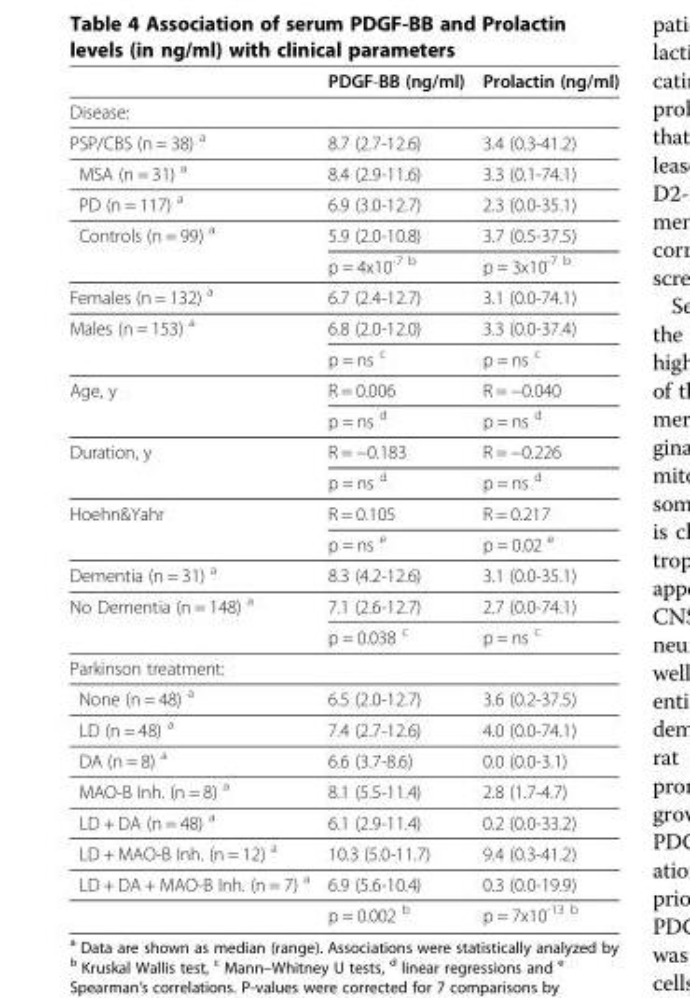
<table><thead><tr><td></td><td>PDGF-BB (ng/ml)</td><td>Prolactin (ng/ml)</td></tr></thead><tbody><tr><td colspan="3">Disease:</td></tr><tr><td>PSP/CBS (n = 38) <sup>a</sup></td><td>8.7 (2.7-12.6)</td><td>3.4 (0.3-41.2)</td></tr><tr><td>MSA (n = 31) <sup>a</sup></td><td>8.4 (2.9-11.6)</td><td>3.3 (0.1-74.1)</td></tr><tr><td>PD (n = 117) <sup>a</sup></td><td>6.9 (3.0-12.7)</td><td>2.3 (0.0-35.1)</td></tr><tr><td rowspan="2">Controls (n = 99) <sup>a</sup></td><td>5.9 (2.0-10.8)</td><td>3.7 (0.5-37.5)</td></tr><tr><td>p = 4x10<sup>-7 b</sup></td><td>p = 3x10<sup>-7 b</sup></td></tr><tr><td>Females (n = 132) <sup>a</sup></td><td>6.7 (2.4-12.7)</td><td>3.1 (0.0-74.1)</td></tr><tr><td rowspan="2">Males (n = 153) <sup>a</sup></td><td>6.8 (2.0-12.0)</td><td>3.3 (0.0-37.4)</td></tr><tr><td>p = ns <sup>c</sup></td><td>p = ns <sup>c</sup></td></tr><tr><td rowspan="2">Age, y</td><td>R = 0.006</td><td>R = −0.040</td></tr><tr><td>p = ns <sup>d</sup></td><td>p = ns <sup>d</sup></td></tr><tr><td rowspan="2">Duration, y</td><td>R = −0.183</td><td>R = −0.226</td></tr><tr><td>p = ns <sup>d</sup></td><td>p = ns <sup>d</sup></td></tr><tr><td rowspan="2">Hoehn&amp;Yahr</td><td>R = 0.105</td><td>R = 0.217</td></tr><tr><td>p = ns <sup>e</sup></td><td>p = 0.02 <sup>e</sup></td></tr><tr><td>Dementia (n = 31) <sup>a</sup></td><td>8.3 (4.2-12.6)</td><td>3.1 (0.0-35.1)</td></tr><tr><td rowspan="2">No Dementia (n = 148) <sup>a</sup></td><td>7.1 (2.6-12.7)</td><td>2.7 (0.0-74.1)</td></tr><tr><td>p = 0.038 <sup>c</sup></td><td>p = ns <sup>c</sup></td></tr><tr><td colspan="3">Parkinson treatment:</td></tr><tr><td>None (n = 48) <sup>a</sup></td><td>6.5 (2.0-12.7)</td><td>3.6 (0.2-37.5)</td></tr><tr><td>LD (n = 48) <sup>a</sup></td><td>7.4 (2.7-12.6)</td><td>4.0 (0.0-74.1)</td></tr><tr><td>DA (n = 8) <sup>a</sup></td><td>6.6 (3.7-8.6)</td><td>0.0 (0.0-3.1)</td></tr><tr><td>MAO-B Inh. (n = 8) <sup>a</sup></td><td>8.1 (5.5-11.4)</td><td>2.8 (1.7-4.7)</td></tr><tr><td>LD + DA (n = 48) <sup>a</sup></td><td>6.1 (2.9-11.4)</td><td>0.2 (0.0-33.2)</td></tr><tr><td>LD + MAO-B Inh. (n = 12) <sup>a</sup></td><td>10.3 (5.0-11.7)</td><td>9.4 (0.3-41.2)</td></tr><tr><td rowspan="2">LD + DA + MAO-B Inh. (n = 7) <sup>a</sup></td><td>6.9 (5.6-10.4)</td><td>0.3 (0.0-19.9)</td></tr><tr><td>p = 0.002 <sup>b</sup></td><td>p = 7x10<sup>-13 b</sup></td></tr></tbody></table>